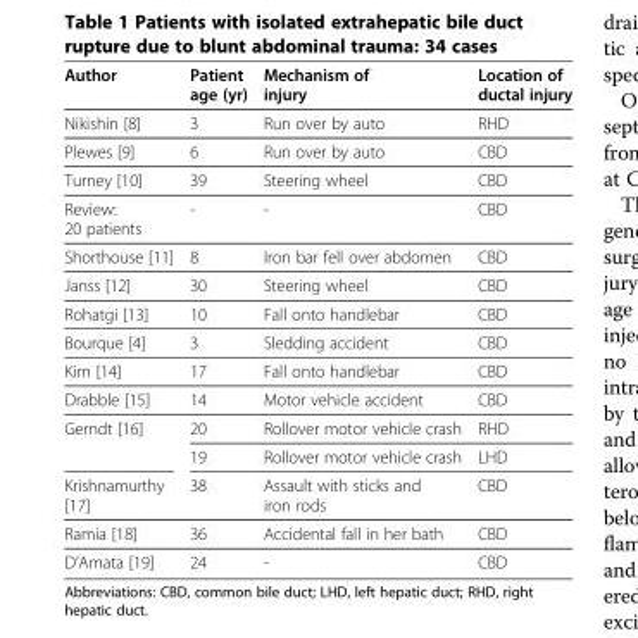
<table><thead><tr><td>Author</td><td>Patient age (yr)</td><td>Mechanism of injury</td><td>Location of ductal injury</td></tr></thead><tbody><tr><td>Nikishin [8]</td><td>3</td><td>Run over by auto</td><td>RHD</td></tr><tr><td>Plewes [9]</td><td>6</td><td>Run over by auto</td><td>CBD</td></tr><tr><td>Turney [10]</td><td>39</td><td>Steering wheel</td><td>CBD</td></tr><tr><td>Review: 20 patients</td><td>-</td><td>-</td><td>CBD</td></tr><tr><td>Shorthouse [11]</td><td>8</td><td>Iron bar fell over abdomen</td><td>CBD</td></tr><tr><td>Janss [12]</td><td>30</td><td>Steering wheel</td><td>CBD</td></tr><tr><td>Rohatgi [13]</td><td>10</td><td>Fall onto handlebar</td><td>CBD</td></tr><tr><td>Bourque [4]</td><td>3</td><td>Sledding accident</td><td>CBD</td></tr><tr><td>Kim [14]</td><td>17</td><td>Fall onto handlebar</td><td>CBD</td></tr><tr><td>Drabble [15]</td><td>14</td><td>Motor vehicle accident</td><td>CBD</td></tr><tr><td rowspan="2">Gerndt [16]</td><td>20</td><td>Rollover motor vehicle crash</td><td>RHD</td></tr><tr><td>19</td><td>Rollover motor vehicle crash</td><td>LHD</td></tr><tr><td>Krishnamurthy [17]</td><td>38</td><td>Assault with sticks and iron rods</td><td>CBD</td></tr><tr><td>Ramia [18]</td><td>36</td><td>Accidental fall in her bath</td><td>CBD</td></tr><tr><td>D’Amata [19]</td><td>24</td><td>-</td><td>CBD</td></tr></tbody></table>